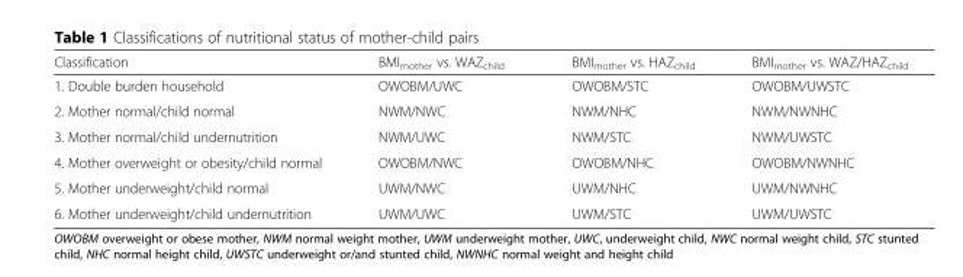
<table><thead><tr><td>Classification</td><td>BMI<sub>mother</sub> vs. WAZ<sub>child</sub></td><td>BMI<sub>mother</sub> vs. HAZ<sub>child</sub></td><td>BMI<sub>mother</sub> vs. WAZ/HAZ<sub>child</sub></td></tr></thead><tbody><tr><td>1. Double burden household</td><td>OWOBM/UWC</td><td>OWOBM/STC</td><td>OWOBM/UWSTC</td></tr><tr><td>2. Mother normal/child normal</td><td>NWM/NWC</td><td>NWM/NHC</td><td>NWM/NWNHC</td></tr><tr><td>3. Mother normal/child undernutrition</td><td>NWM/UWC</td><td>NWM/STC</td><td>NWM/UWSTC</td></tr><tr><td>4. Mother overweight or obesity/child normal</td><td>OWOBM/NWC</td><td>OWOBM/NHC</td><td>OWOBM/NWNHC</td></tr><tr><td>5. Mother underweight/child normal</td><td>UWM/NWC</td><td>UWM/NHC</td><td>UWM/NWNHC</td></tr><tr><td>6. Mother underweight/child undernutrition</td><td>UWM/UWC</td><td>UWM/STC</td><td>UWM/UWSTC</td></tr></tbody></table>